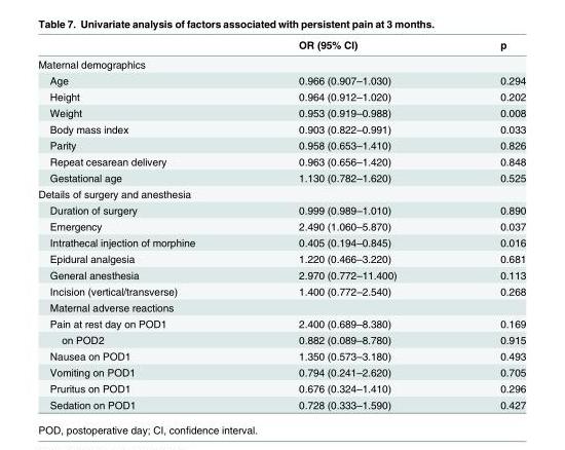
<table><thead><tr><td></td><td>OR (95% CI)</td><td>p</td></tr></thead><tbody><tr><td colspan="3">Maternal demographics</td></tr><tr><td>Age</td><td>0.966 (0.907–1.030)</td><td>0.294</td></tr><tr><td>Height</td><td>0.964 (0.912–1.020)</td><td>0.202</td></tr><tr><td>Weight</td><td>0.953 (0.919–0.988)</td><td>0.008</td></tr><tr><td>Body mass index</td><td>0.903 (0.822–0.991)</td><td>0.033</td></tr><tr><td>Parity</td><td>0.958 (0.653–1.410)</td><td>0.826</td></tr><tr><td>Repeat cesarean delivery</td><td>0.963 (0.656–1.420)</td><td>0.848</td></tr><tr><td>Gestational age</td><td>1.130 (0.782–1.620)</td><td>0.525</td></tr><tr><td colspan="3">Details of surgery and anesthesia</td></tr><tr><td>Duration of surgery</td><td>0.999 (0.989–1.010)</td><td>0.890</td></tr><tr><td>Emergency</td><td>2.490 (1.060–5.870)</td><td>0.037</td></tr><tr><td>Intrathecal injection of morphine</td><td>0.405 (0.194–0.845)</td><td>0.016</td></tr><tr><td>Epidural analgesia</td><td>1.220 (0.466–3.220)</td><td>0.681</td></tr><tr><td>General anesthesia</td><td>2.970 (0.772–11.400)</td><td>0.113</td></tr><tr><td>Incision (vertical/transverse)</td><td>1.400 (0.772–2.540)</td><td>0.268</td></tr><tr><td colspan="3">Maternal adverse reactions</td></tr><tr><td>Pain at rest day on POD1</td><td>2.400 (0.689–8.380)</td><td>0.169</td></tr><tr><td>on POD2</td><td>0.882 (0.089–8.780)</td><td>0.915</td></tr><tr><td>Nausea on POD1</td><td>1.350 (0.573–3.180)</td><td>0.493</td></tr><tr><td>Vomiting on POD1</td><td>0.794 (0.241–2.620)</td><td>0.705</td></tr><tr><td>Pruritus on POD1</td><td>0.676 (0.324–1.410)</td><td>0.296</td></tr><tr><td>Sedation on POD1</td><td>0.728 (0.333–1.590)</td><td>0.427</td></tr></tbody></table>